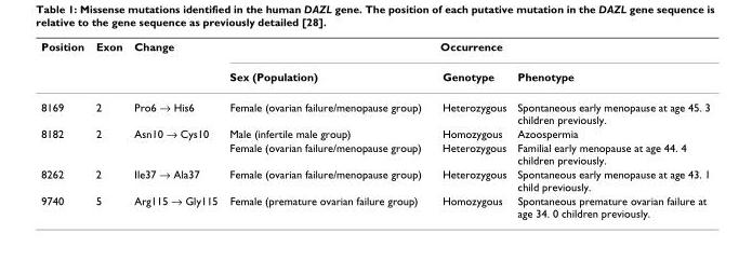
<table><thead><tr><td rowspan="2">Position</td><td rowspan="2">Exon</td><td rowspan="2">Change</td><td colspan="3">Occurrence</td></tr><tr><td>Sex (Population)</td><td>Genotype</td><td>Phenotype</td></tr></thead><tbody><tr><td>8169</td><td>2</td><td>Pro6 → His6</td><td>Female (ovarian failure/menopause group)</td><td>Heterozygous</td><td>Spontaneous early menopause at age 45. 3 children previously.</td></tr><tr><td rowspan="2">8182</td><td>2</td><td>Asn10 → Cys10</td><td>Male (infertile male group)</td><td>Homozygous</td><td>Azoospermia</td></tr><tr><td></td><td></td><td>Female (ovarian failure/menopause group)</td><td>Heterozygous</td><td>Familial early menopause at age 44. 4 children previously.</td></tr><tr><td>8262</td><td>2</td><td>Ile37 → Ala37</td><td>Female (ovarian failure/menopause group)</td><td>Heterozygous</td><td>Spontaneous early menopause at age 43. 1 child previously.</td></tr><tr><td>9740</td><td>5</td><td>Arg115 → Gly115</td><td>Female (premature ovarian failure group)</td><td>Homozygous</td><td>Spontaneous premature ovarian failure at age 34. 0 children previously.</td></tr></tbody></table>